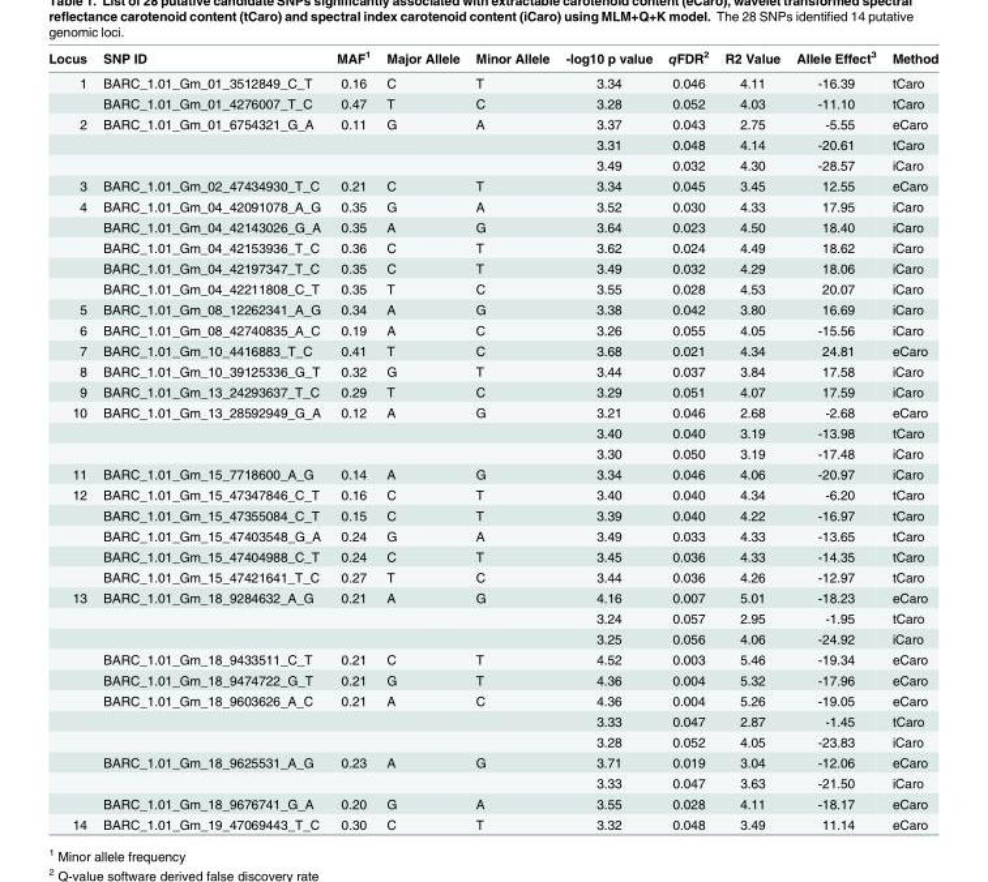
<table><thead><tr><td>Locus</td><td>SNP ID</td><td>MAF<sup>1</sup></td><td>Major Allele</td><td>Minor Allele</td><td>-log10 p value</td><td>qFDR<sup>2</sup></td><td>R2 Value</td><td>Allele Effect<sup>3</sup></td><td>Method</td></tr></thead><tbody><tr><td rowspan="2">1</td><td>BARC_1.01_Gm_01_3512849_C_T</td><td>0.16</td><td>C</td><td>T</td><td>3.34</td><td>0.046</td><td>4.11</td><td>-16.39</td><td>tCaro</td></tr><tr><td>BARC_1.01_Gm_01_4276007_T_C</td><td>0.47</td><td>T</td><td>C</td><td>3.28</td><td>0.052</td><td>4.03</td><td>-11.10</td><td>tCaro</td></tr><tr><td rowspan="3">2</td><td>BARC_1.01_Gm_01_6754321_G_A</td><td>0.11</td><td>G</td><td>A</td><td>3.37</td><td>0.043</td><td>2.75</td><td>-5.55</td><td>eCaro</td></tr><tr><td></td><td></td><td></td><td></td><td>3.31</td><td>0.048</td><td>4.14</td><td>-20.61</td><td>tCaro</td></tr><tr><td></td><td></td><td></td><td></td><td>3.49</td><td>0.032</td><td>4.30</td><td>-28.57</td><td>iCaro</td></tr><tr><td>3</td><td>BARC_1.01_Gm_02_47434930_T_C</td><td>0.21</td><td>C</td><td>T</td><td>3.34</td><td>0.045</td><td>3.45</td><td>12.55</td><td>eCaro</td></tr><tr><td rowspan="5">4</td><td>BARC_1.01_Gm_04_42091078_A_G</td><td>0.35</td><td>G</td><td>A</td><td>3.52</td><td>0.030</td><td>4.33</td><td>17.95</td><td>iCaro</td></tr><tr><td>BARC_1.01_Gm_04_42143026_G_A</td><td>0.35</td><td>A</td><td>G</td><td>3.64</td><td>0.023</td><td>4.50</td><td>18.40</td><td>iCaro</td></tr><tr><td>BARC_1.01_Gm_04_42153936_T_C</td><td>0.36</td><td>C</td><td>T</td><td>3.62</td><td>0.024</td><td>4.49</td><td>18.62</td><td>iCaro</td></tr><tr><td>BARC_1.01_Gm_04_42197347_T_C</td><td>0.35</td><td>C</td><td>T</td><td>3.49</td><td>0.032</td><td>4.29</td><td>18.06</td><td>iCaro</td></tr><tr><td>BARC_1.01_Gm_04_42211808_C_T</td><td>0.35</td><td>T</td><td>C</td><td>3.55</td><td>0.028</td><td>4.53</td><td>20.07</td><td>iCaro</td></tr><tr><td>5</td><td>BARC_1.01_Gm_08_12262341_A_G</td><td>0.34</td><td>A</td><td>G</td><td>3.38</td><td>0.042</td><td>3.80</td><td>16.69</td><td>iCaro</td></tr><tr><td>6</td><td>BARC_1.01_Gm_08_42740835_A_C</td><td>0.19</td><td>A</td><td>C</td><td>3.26</td><td>0.055</td><td>4.05</td><td>-15.56</td><td>iCaro</td></tr><tr><td>7</td><td>BARC_1.01_Gm_10_4416883_T_C</td><td>0.41</td><td>T</td><td>C</td><td>3.68</td><td>0.021</td><td>4.34</td><td>24.81</td><td>eCaro</td></tr><tr><td>8</td><td>BARC_1.01_Gm_10_39125336_G_T</td><td>0.32</td><td>G</td><td>T</td><td>3.44</td><td>0.037</td><td>3.84</td><td>17.58</td><td>iCaro</td></tr><tr><td>9</td><td>BARC_1.01_Gm_13_24293637_T_C</td><td>0.29</td><td>T</td><td>C</td><td>3.29</td><td>0.051</td><td>4.07</td><td>17.59</td><td>iCaro</td></tr><tr><td rowspan="3">10</td><td>BARC_1.01_Gm_13_28592949_G_A</td><td>0.12</td><td>A</td><td>G</td><td>3.21</td><td>0.046</td><td>2.68</td><td>-2.68</td><td>eCaro</td></tr><tr><td></td><td></td><td></td><td></td><td>3.40</td><td>0.040</td><td>3.19</td><td>-13.98</td><td>tCaro</td></tr><tr><td></td><td></td><td></td><td></td><td>3.30</td><td>0.050</td><td>3.19</td><td>-17.48</td><td>iCaro</td></tr><tr><td>11</td><td>BARC_1.01_Gm_15_7718600_A_G</td><td>0.14</td><td>A</td><td>G</td><td>3.34</td><td>0.046</td><td>4.06</td><td>-20.97</td><td>iCaro</td></tr><tr><td rowspan="5">12</td><td>BARC_1.01_Gm_15_47347846_C_T</td><td>0.16</td><td>C</td><td>T</td><td>3.40</td><td>0.040</td><td>4.34</td><td>-6.20</td><td>tCaro</td></tr><tr><td>BARC_1.01_Gm_15_47355084_C_T</td><td>0.15</td><td>C</td><td>T</td><td>3.39</td><td>0.040</td><td>4.22</td><td>-16.97</td><td>tCaro</td></tr><tr><td>BARC_1.01_Gm_15_47403548_G_A</td><td>0.24</td><td>G</td><td>A</td><td>3.49</td><td>0.033</td><td>4.33</td><td>-13.65</td><td>tCaro</td></tr><tr><td>BARC_1.01_Gm_15_47404988_C_T</td><td>0.24</td><td>C</td><td>T</td><td>3.45</td><td>0.036</td><td>4.33</td><td>-14.35</td><td>tCaro</td></tr><tr><td>BARC_1.01_Gm_15_47421641_T_C</td><td>0.27</td><td>T</td><td>C</td><td>3.44</td><td>0.036</td><td>4.26</td><td>-12.97</td><td>tCaro</td></tr><tr><td rowspan="11">13</td><td>BARC_1.01_Gm_18_9284632_A_G</td><td>0.21</td><td>A</td><td>G</td><td>4.16</td><td>0.007</td><td>5.01</td><td>-18.23</td><td>eCaro</td></tr><tr><td></td><td></td><td></td><td></td><td>3.24</td><td>0.057</td><td>2.95</td><td>-1.95</td><td>tCaro</td></tr><tr><td></td><td></td><td></td><td></td><td>3.25</td><td>0.056</td><td>4.06</td><td>-24.92</td><td>iCaro</td></tr><tr><td>BARC_1.01_Gm_18_9433511_C_T</td><td>0.21</td><td>C</td><td>T</td><td>4.52</td><td>0.003</td><td>5.46</td><td>-19.34</td><td>eCaro</td></tr><tr><td>BARC_1.01_Gm_18_9474722_G_T</td><td>0.21</td><td>G</td><td>T</td><td>4.36</td><td>0.004</td><td>5.32</td><td>-17.96</td><td>eCaro</td></tr><tr><td>BARC_1.01_Gm_18_9603626_A_C</td><td>0.21</td><td>A</td><td>C</td><td>4.36</td><td>0.004</td><td>5.26</td><td>-19.05</td><td>eCaro</td></tr><tr><td></td><td></td><td></td><td></td><td>3.33</td><td>0.047</td><td>2.87</td><td>-1.45</td><td>tCaro</td></tr><tr><td></td><td></td><td></td><td></td><td>3.28</td><td>0.052</td><td>4.05</td><td>-23.83</td><td>iCaro</td></tr><tr><td>BARC_1.01_Gm_18_9625531_A_G</td><td>0.23</td><td>A</td><td>G</td><td>3.71</td><td>0.019</td><td>3.04</td><td>-12.06</td><td>eCaro</td></tr><tr><td></td><td></td><td></td><td></td><td>3.33</td><td>0.047</td><td>3.63</td><td>-21.50</td><td>iCaro</td></tr><tr><td>BARC_1.01_Gm_18_9676741_G_A</td><td>0.20</td><td>G</td><td>A</td><td>3.55</td><td>0.028</td><td>4.11</td><td>-18.17</td><td>eCaro</td></tr><tr><td>14</td><td>BARC_1.01_Gm_19_47069443_T_C</td><td>0.30</td><td>C</td><td>T</td><td>3.32</td><td>0.048</td><td>3.49</td><td>11.14</td><td>eCaro</td></tr></tbody></table>